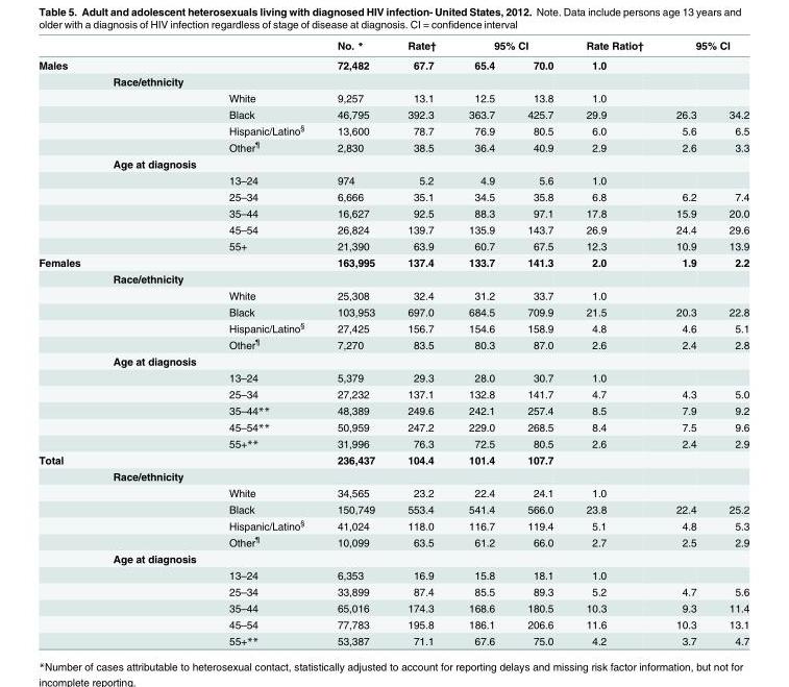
<table><thead><tr><td rowspan="2">Males</td><td rowspan="2"></td><td rowspan="2"></td><td rowspan="2">No. * 72,482</td><td rowspan="2">Rate† 67.7</td><td colspan="2">95% CI</td><td rowspan="2">Rate Ratio† 1.0</td><td colspan="2">95% CI</td></tr><tr><td>65.4</td><td>70.0</td><td></td><td></td></tr></thead><tbody><tr><td></td><td>Race/ethnicity</td><td></td><td></td><td></td><td></td><td></td><td></td><td></td><td></td></tr><tr><td></td><td></td><td>White</td><td>9,257</td><td>13.1</td><td>12.5</td><td>13.8</td><td>1.0</td><td></td><td></td></tr><tr><td></td><td></td><td>Black</td><td>46,795</td><td>392.3</td><td>363.7</td><td>425.7</td><td>29.9</td><td>26.3</td><td>34.2</td></tr><tr><td></td><td></td><td>Hispanic/Latino<sup>§</sup></td><td>13,600</td><td>78.7</td><td>76.9</td><td>80.5</td><td>6.0</td><td>5.6</td><td>6.5</td></tr><tr><td></td><td></td><td>Other<sup>¶</sup></td><td>2,830</td><td>38.5</td><td>36.4</td><td>40.9</td><td>2.9</td><td>2.6</td><td>3.3</td></tr><tr><td></td><td>Age at diagnosis</td><td></td><td></td><td></td><td></td><td></td><td></td><td></td><td></td></tr><tr><td></td><td></td><td>13–24</td><td>974</td><td>5.2</td><td>4.9</td><td>5.6</td><td>1.0</td><td></td><td></td></tr><tr><td></td><td></td><td>25–34</td><td>6,666</td><td>35.1</td><td>34.5</td><td>35.8</td><td>6.8</td><td>6.2</td><td>7.4</td></tr><tr><td></td><td></td><td>35–44</td><td>16,627</td><td>92.5</td><td>88.3</td><td>97.1</td><td>17.8</td><td>15.9</td><td>20.0</td></tr><tr><td></td><td></td><td>45–54</td><td>26,824</td><td>139.7</td><td>135.9</td><td>143.7</td><td>26.9</td><td>24.4</td><td>29.6</td></tr><tr><td></td><td></td><td>55+</td><td>21,390</td><td>63.9</td><td>60.7</td><td>67.5</td><td>12.3</td><td>10.9</td><td>13.9</td></tr><tr><td rowspan="12">Females</td><td></td><td></td><td>163,995</td><td>137.4</td><td>133.7</td><td>141.3</td><td>2.0</td><td>1.9</td><td>2.2</td></tr><tr><td>Race/ethnicity</td><td></td><td></td><td></td><td></td><td></td><td></td><td></td><td></td></tr><tr><td></td><td>White</td><td>25,308</td><td>32.4</td><td>31.2</td><td>33.7</td><td>1.0</td><td></td><td></td></tr><tr><td></td><td>Black</td><td>103,953</td><td>697.0</td><td>684.5</td><td>709.9</td><td>21.5</td><td>20.3</td><td>22.8</td></tr><tr><td></td><td>Hispanic/Latino<sup>§</sup></td><td>27,425</td><td>156.7</td><td>154.6</td><td>158.9</td><td>4.8</td><td>4.6</td><td>5.1</td></tr><tr><td></td><td>Other<sup>¶</sup></td><td>7,270</td><td>83.5</td><td>80.3</td><td>87.0</td><td>2.6</td><td>2.4</td><td>2.8</td></tr><tr><td>Age at diagnosis</td><td></td><td></td><td></td><td></td><td></td><td></td><td></td><td></td></tr><tr><td></td><td>13–24</td><td>5,379</td><td>29.3</td><td>28.0</td><td>30.7</td><td>1.0</td><td></td><td></td></tr><tr><td></td><td>25–34</td><td>27,232</td><td>137.1</td><td>132.8</td><td>141.7</td><td>4.7</td><td>4.3</td><td>5.0</td></tr><tr><td></td><td>35–44**</td><td>48,389</td><td>249.6</td><td>242.1</td><td>257.4</td><td>8.5</td><td>7.9</td><td>9.2</td></tr><tr><td></td><td>45–54**</td><td>50,959</td><td>247.2</td><td>229.0</td><td>268.5</td><td>8.4</td><td>7.5</td><td>9.6</td></tr><tr><td></td><td>55+**</td><td>31,996</td><td>76.3</td><td>72.5</td><td>80.5</td><td>2.6</td><td>2.4</td><td>2.9</td></tr><tr><td rowspan="12">Total</td><td></td><td></td><td>236,437</td><td>104.4</td><td>101.4</td><td>107.7</td><td></td><td></td><td></td></tr><tr><td>Race/ethnicity</td><td></td><td></td><td></td><td></td><td></td><td></td><td></td><td></td></tr><tr><td></td><td>White</td><td>34,565</td><td>23.2</td><td>22.4</td><td>24.1</td><td>1.0</td><td></td><td></td></tr><tr><td></td><td>Black</td><td>150,749</td><td>553.4</td><td>541.4</td><td>566.0</td><td>23.8</td><td>22.4</td><td>25.2</td></tr><tr><td></td><td>Hispanic/Latino<sup>§</sup></td><td>41,024</td><td>118.0</td><td>116.7</td><td>119.4</td><td>5.1</td><td>4.8</td><td>5.3</td></tr><tr><td></td><td>Other<sup>¶</sup></td><td>10,099</td><td>63.5</td><td>61.2</td><td>66.0</td><td>2.7</td><td>2.5</td><td>2.9</td></tr><tr><td>Age at diagnosis</td><td></td><td></td><td></td><td></td><td></td><td></td><td></td><td></td></tr><tr><td></td><td>13–24</td><td>6,353</td><td>16.9</td><td>15.8</td><td>18.1</td><td>1.0</td><td></td><td></td></tr><tr><td></td><td>25–34</td><td>33,899</td><td>87.4</td><td>85.5</td><td>89.3</td><td>5.2</td><td>4.7</td><td>5.6</td></tr><tr><td></td><td>35–44</td><td>65,016</td><td>174.3</td><td>168.6</td><td>180.5</td><td>10.3</td><td>9.3</td><td>11.4</td></tr><tr><td></td><td>45–54</td><td>77,783</td><td>195.8</td><td>186.1</td><td>206.6</td><td>11.6</td><td>10.3</td><td>13.1</td></tr><tr><td></td><td>55+**</td><td>53,387</td><td>71.1</td><td>67.6</td><td>75.0</td><td>4.2</td><td>3.7</td><td>4.7</td></tr></tbody></table>